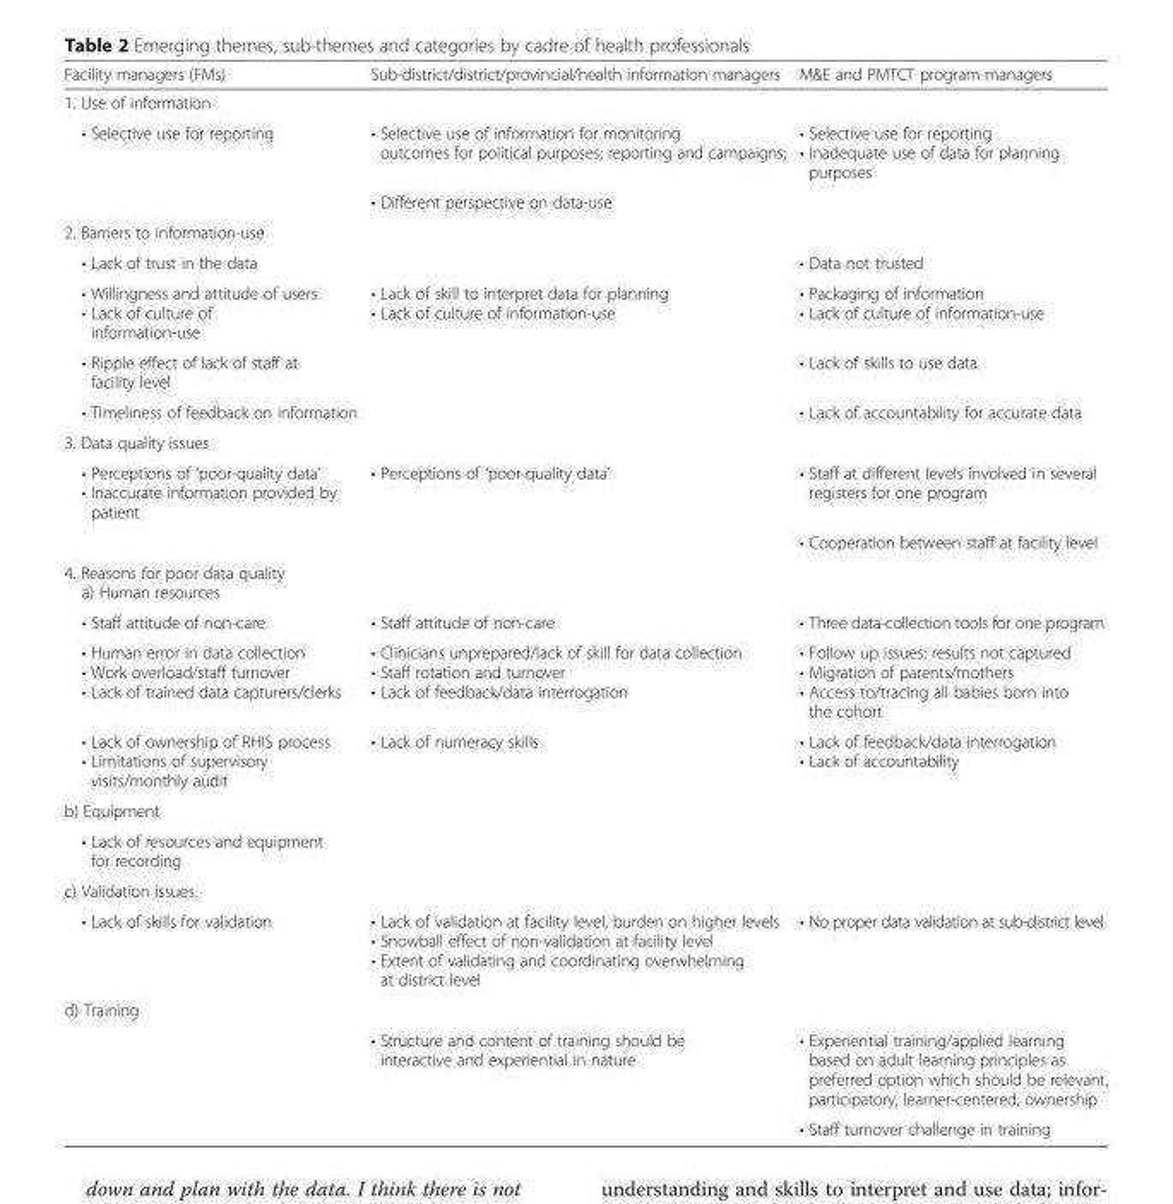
<table><thead><tr><td>Facility managers (FMs)</td><td>Sub-district/district/provincial/health information managers</td><td>M&amp;E and PMTCT program managers</td></tr></thead><tbody><tr><td colspan="3">1. Use of information</td></tr><tr><td rowspan="2">• Selective use for reporting</td><td>• Selective use of information for monitoring outcomes for political purposes; reporting and campaigns;</td><td>• Selective use for reporting • Inadequate use of data for planning purposes</td></tr><tr><td>• Different perspective on data-use</td><td></td></tr><tr><td colspan="3">2. Barriers to information-use</td></tr><tr><td>• Lack of trust in the data</td><td></td><td>• Data not trusted</td></tr><tr><td>• Willingness and attitude of users • Lack of culture of information-use</td><td>• Lack of skill to interpret data for planning • Lack of culture of information-use</td><td>• Packaging of information • Lack of culture of information-use</td></tr><tr><td>• Ripple effect of lack of staff at facility level</td><td></td><td>• Lack of skills to use data</td></tr><tr><td>• Timeliness of feedback on information</td><td></td><td>• Lack of accountability for accurate data</td></tr><tr><td colspan="3">3. Data quality issues</td></tr><tr><td rowspan="2">• Perceptions of ‘poor-quality data’ • Inaccurate information provided by patient</td><td>• Perceptions of ‘poor-quality data’</td><td>• Staff at different levels involved in several registers for one program</td></tr><tr><td></td><td>• Cooperation between staff at facility level</td></tr><tr><td colspan="3">4. Reasons for poor data quality a) Human resources</td></tr><tr><td>• Staff attitude of non-care</td><td>• Staff attitude of non-care</td><td>• Three data-collection tools for one program</td></tr><tr><td>• Human error in data collection • Work overload/staff turnover • Lack of trained data capturers/clerks</td><td>• Clinicians unprepared/lack of skill for data collection • Staff rotation and turnover • Lack of feedback/data interrogation</td><td>• Follow up issues: results not captured • Migration of parents/mothers • Access to/tracing all babies born into the cohort</td></tr><tr><td>• Lack of ownership of RHIS process • Limitations of supervisory visits/monthly audit</td><td>• Lack of numeracy skills</td><td>• Lack of feedback/data interrogation • Lack of accountability</td></tr><tr><td colspan="3">b) Equipment</td></tr><tr><td colspan="3">• Lack of resources and equipment for recording</td></tr><tr><td colspan="3">c) Validation issues</td></tr><tr><td>• Lack of skills for validation</td><td>• Lack of validation at facility level, burden on higher levels • Snowball effect of non-validation at facility level • Extent of validating and coordinating overwhelming at district level</td><td>• No proper data validation at sub-district level</td></tr><tr><td colspan="3">d) Training</td></tr><tr><td rowspan="2"></td><td>• Structure and content of training should be interactive and experiential in nature</td><td>• Experiential training/applied learning based on adult learning principles as preferred option which should be relevant, participatory, learner-centered, ownership</td></tr><tr><td></td><td>• Staff turnover challenge in training</td></tr></tbody></table>